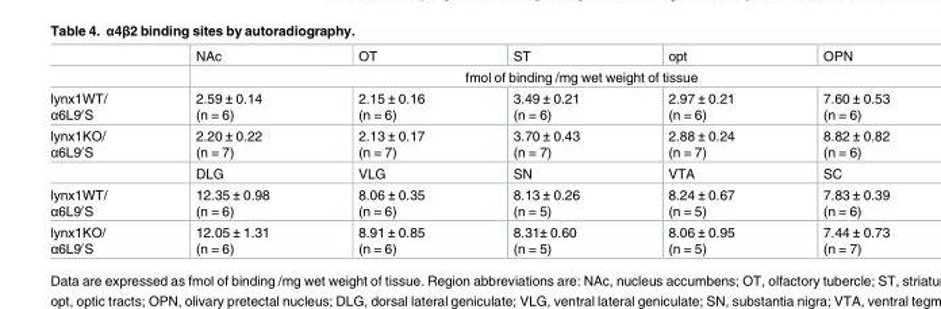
<table><thead><tr><td></td><td>NAc</td><td>OT</td><td>ST</td><td>opt</td><td>OPN</td></tr></thead><tbody><tr><td></td><td colspan="5">fmol of binding /mg wet weight of tissue</td></tr><tr><td>lynx1WT/ α6L9′S</td><td>2.59 ± 0.14 (n = 6)</td><td>2.15 ± 0.16 (n = 6)</td><td>3.49 ± 0.21 (n = 6)</td><td>2.97 ± 0.21 (n = 6)</td><td>7.60 ± 0.53 (n = 6)</td></tr><tr><td rowspan="2">lynx1KO/ α6L9′S</td><td>2.20 ± 0.22 (n = 7)</td><td>2.13 ± 0.17 (n = 7)</td><td>3.70 ± 0.43 (n = 7)</td><td>2.88 ± 0.24 (n = 7)</td><td>8.82 ± 0.82 (n = 6)</td></tr><tr><td>DLG</td><td>VLG</td><td>SN</td><td>VTA</td><td>SC</td></tr><tr><td>lynx1WT/ α6L9′S</td><td>12.35 ± 0.98 (n = 6)</td><td>8.06 ± 0.35 (n = 6)</td><td>8.13 ± 0.26 (n = 5)</td><td>8.24 ± 0.67 (n = 5)</td><td>7.83 ± 0.39 (n = 6)</td></tr><tr><td>lynx1KO/ α6L9′S</td><td>12.05 ± 1.31 (n = 6)</td><td>8.91 ± 0.85 (n = 6)</td><td>8.31± 0.60 (n = 5)</td><td>8.06 ± 0.95 (n = 5)</td><td>7.44 ± 0.73 (n = 7)</td></tr></tbody></table>